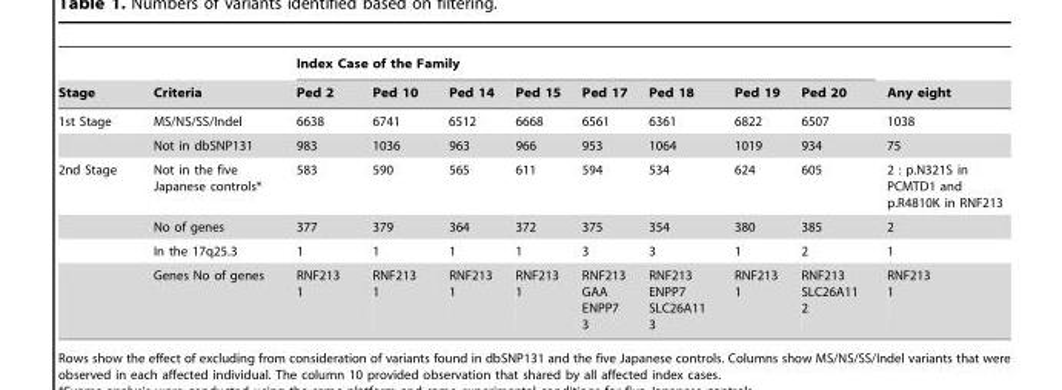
<table><thead><tr><td rowspan="2">Stage</td><td rowspan="2">Criteria</td><td colspan="8">Index Case of the Family</td><td rowspan="2">Any eight</td></tr><tr><td>Ped 2</td><td>Ped 10</td><td>Ped 14</td><td>Ped 15</td><td>Ped 17</td><td>Ped 18</td><td>Ped 19</td><td>Ped 20</td></tr></thead><tbody><tr><td rowspan="2">1st Stage</td><td>MS/NS/SS/Indel</td><td>6638</td><td>6741</td><td>6512</td><td>6668</td><td>6561</td><td>6361</td><td>6822</td><td>6507</td><td>1038</td></tr><tr><td>Not in dbSNP131</td><td>983</td><td>1036</td><td>963</td><td>966</td><td>953</td><td>1064</td><td>1019</td><td>934</td><td>75</td></tr><tr><td rowspan="4">2nd Stage</td><td>Not in the five Japanese controls*</td><td>583</td><td>590</td><td>565</td><td>611</td><td>594</td><td>534</td><td>624</td><td>605</td><td>2 : p.N321S in PCMTD1 and p.R4810K in RNF213</td></tr><tr><td>No of genes</td><td>377</td><td>379</td><td>364</td><td>372</td><td>375</td><td>354</td><td>380</td><td>385</td><td>2</td></tr><tr><td>In the 17q25.3</td><td>1</td><td>1</td><td>1</td><td>1</td><td>3</td><td>3</td><td>1</td><td>2</td><td>1</td></tr><tr><td>Genes No of genes</td><td>RNF213 1</td><td>RNF213 1</td><td>RNF213 1</td><td>RNF213 1</td><td>RNF213 GAA ENPP7 3</td><td>RNF213 ENPP7 SLC26A11 3</td><td>RNF213 1</td><td>RNF213 SLC26A11 2</td><td>RNF213 1</td></tr></tbody></table>